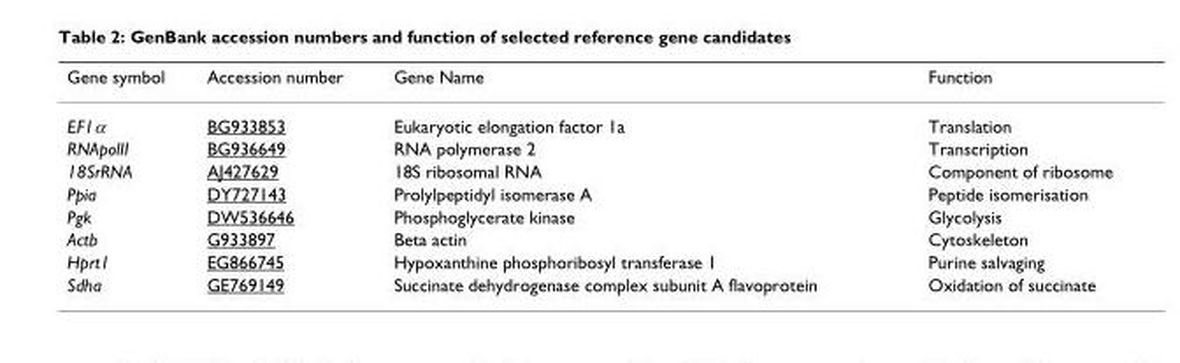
<table><thead><tr><td>Gene symbol</td><td>Accession number</td><td>Gene Name</td><td>Function</td></tr></thead><tbody><tr><td>EF1α</td><td>BG933853</td><td>Eukaryotic elongation factor 1a</td><td>Translation</td></tr><tr><td>RNApolII</td><td>BG936649</td><td>RNA polymerase 2</td><td>Transcription</td></tr><tr><td>18SrRNA</td><td>AJ427629</td><td>18S ribosomal RNA</td><td>Component of ribosome</td></tr><tr><td>Ppia</td><td>DY727143</td><td>Prolylpeptidyl isomerase A</td><td>Peptide isomerisation</td></tr><tr><td>Pgk</td><td>DW536646</td><td>Phosphoglycerate kinase</td><td>Glycolysis</td></tr><tr><td>Actb</td><td>G933897</td><td>Beta actin</td><td>Cytoskeleton</td></tr><tr><td>Hprt1</td><td>EG866745</td><td>Hypoxanthine phosphoribosyl transferase 1</td><td>Purine salvaging</td></tr><tr><td>Sdha</td><td>GE769149</td><td>Succinate dehydrogenase complex subunit A flavoprotein</td><td>Oxidation of succinate</td></tr></tbody></table>